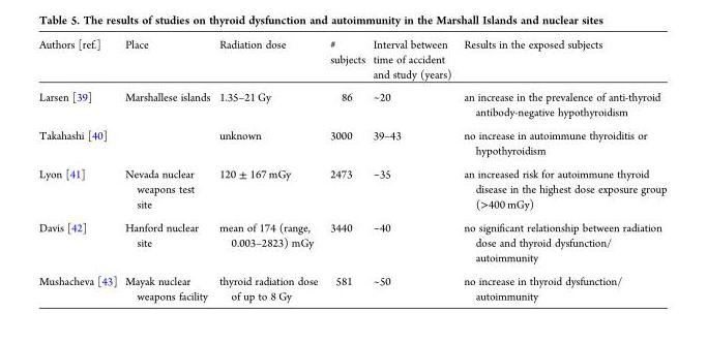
<table><thead><tr><td>Authors [ref.]</td><td>Place</td><td>Radiation dose</td><td># subjects</td><td>Interval between time of accident and study (years)</td><td>Results in the exposed subjects</td></tr></thead><tbody><tr><td>Larsen [39]</td><td rowspan="2">Marshallese islands</td><td>1.35–21 Gy</td><td>86</td><td>~20</td><td>an increase in the prevalence of anti-thyroid antibody-negative hypothyroidism</td></tr><tr><td>Takahashi [40]</td><td>unknown</td><td>3000</td><td>39–43</td><td>no increase in autoimmune thyroiditis or hypothyroidism</td></tr><tr><td>Lyon [41]</td><td>Nevada nuclear weapons test site</td><td>120 ± 167 mGy</td><td>2473</td><td>~35</td><td>an increased risk for autoimmune thyroid disease in the highest dose exposure group (&gt;400 mGy)</td></tr><tr><td>Davis [42]</td><td>Hanford nuclear site</td><td>mean of 174 (range, 0.003–2823) mGy</td><td>3440</td><td>~40</td><td>no significant relationship between radiation dose and thyroid dysfunction/ autoimmunity</td></tr><tr><td>Mushacheva [43]</td><td>Mayak nuclear weapons facility</td><td>thyroid radiation dose of up to 8 Gy</td><td>581</td><td>~50</td><td>no increase in thyroid dysfunction/ autoimmunity</td></tr></tbody></table>